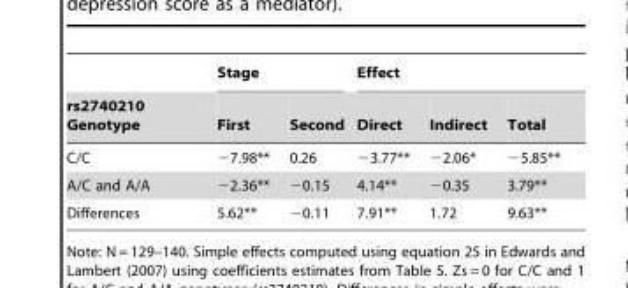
<table><thead><tr><td rowspan="2">rs2740210 Genotype</td><td colspan="2">Stage</td><td colspan="3">Effect</td></tr><tr><td>First</td><td>Second</td><td>Direct</td><td>Indirect</td><td>Total</td></tr></thead><tbody><tr><td>C/C</td><td>−7.98**</td><td>0.26</td><td>−3.77**</td><td>−2.06*</td><td>−5.85**</td></tr><tr><td>A/C and A/A</td><td>−2.36**</td><td>−0.15</td><td>4.14**</td><td>−0.35</td><td>3.79**</td></tr><tr><td>Differences</td><td>5.62**</td><td>−0.11</td><td>7.91**</td><td>1.72</td><td>9.63**</td></tr></tbody></table>